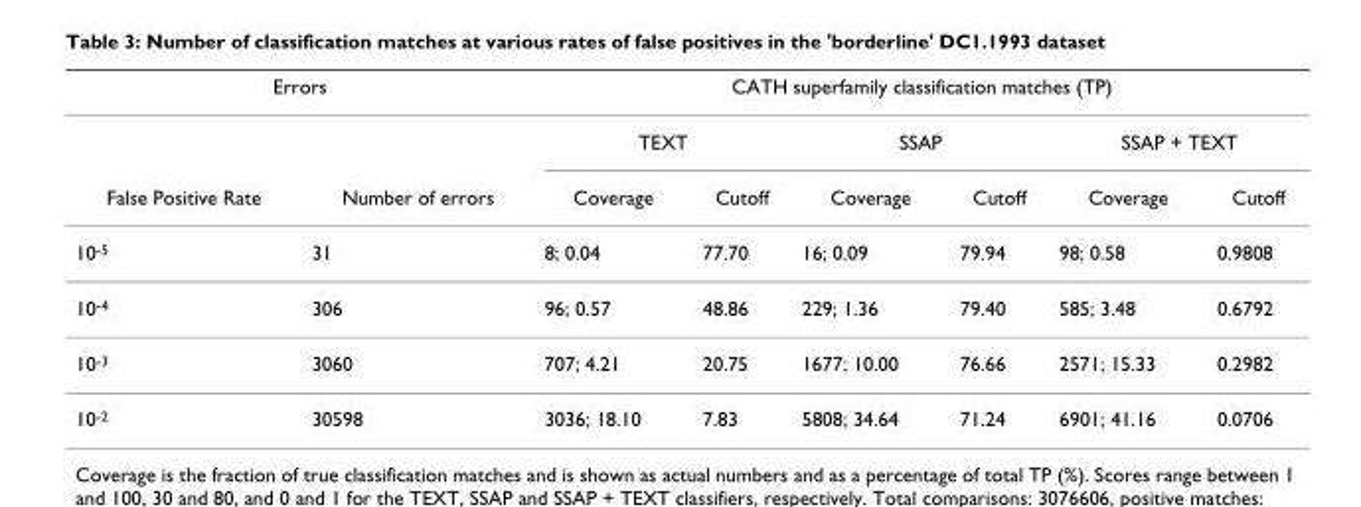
<table><thead><tr><td colspan="2">Errors</td><td colspan="6">CATH superfamily classification matches (TP)</td></tr><tr><td rowspan="2">False Positive Rate</td><td rowspan="2">Number of errors</td><td colspan="2">TEXT</td><td colspan="2">SSAP</td><td colspan="2">SSAP + TEXT</td></tr><tr><td>Coverage</td><td>Cutoff</td><td>Coverage</td><td>Cutoff</td><td>Coverage</td><td>Cutoff</td></tr></thead><tbody><tr><td>10<sup>-5</sup></td><td>31</td><td>8; 0.04</td><td>77.70</td><td>16; 0.09</td><td>79.94</td><td>98; 0.58</td><td>0.9808</td></tr><tr><td>10<sup>-4</sup></td><td>306</td><td>96; 0.57</td><td>48.86</td><td>229; 1.36</td><td>79.40</td><td>585; 3.48</td><td>0.6792</td></tr><tr><td>10<sup>-3</sup></td><td>3060</td><td>707; 4.21</td><td>20.75</td><td>1677; 10.00</td><td>76.66</td><td>2571; 15.33</td><td>0.2982</td></tr><tr><td>10<sup>-2</sup></td><td>30598</td><td>3036; 18.10</td><td>7.83</td><td>5808; 34.64</td><td>71.24</td><td>6901; 41.16</td><td>0.0706</td></tr></tbody></table>